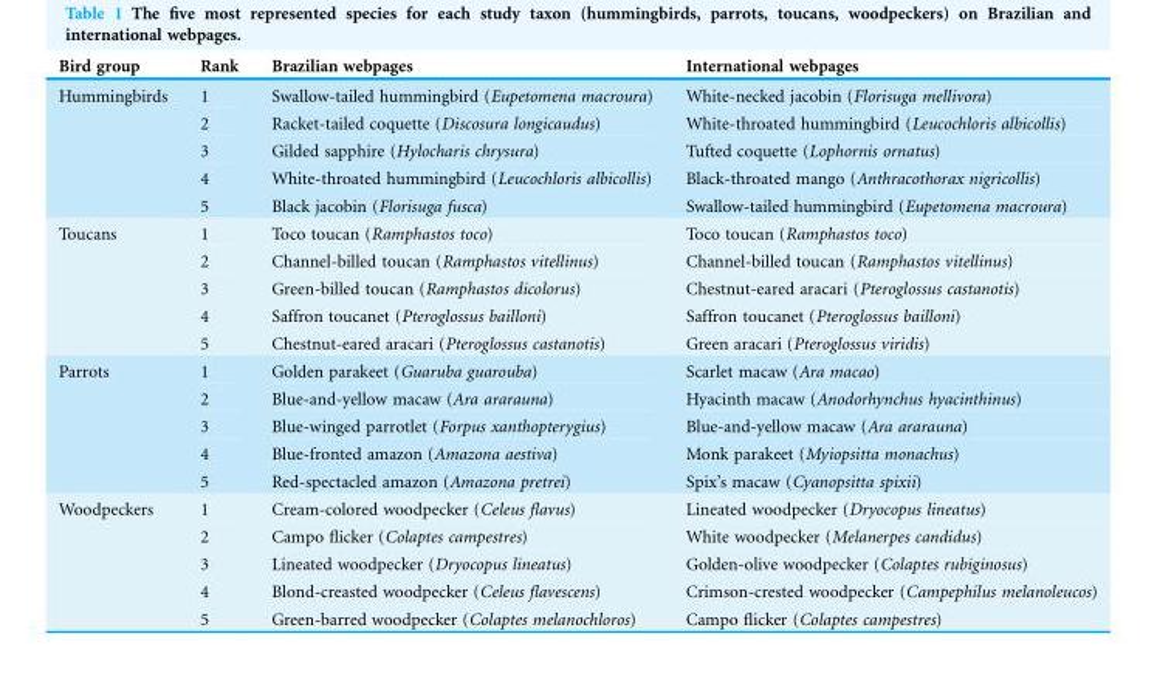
<table><thead><tr><td>Bird group</td><td>Rank</td><td>Brazilian webpages</td><td>International webpages</td></tr></thead><tbody><tr><td rowspan="5">Hummingbirds</td><td>1</td><td>Swallow-tailed hummingbird (Eupetomena macroura)</td><td>White-necked jacobin (Florisuga mellivora)</td></tr><tr><td>2</td><td>Racket-tailed coquette (Discosura longicaudus)</td><td>White-throated hummingbird (Leucochloris albicollis)</td></tr><tr><td>3</td><td>Gilded sapphire (Hylocharis chrysura)</td><td>Tufted coquette (Lophornis ornatus)</td></tr><tr><td>4</td><td>White-throated hummingbird (Leucochloris albicollis)</td><td>Black-throated mango (Anthracothorax nigricollis)</td></tr><tr><td>5</td><td>Black jacobin (Florisuga fusca)</td><td>Swallow-tailed hummingbird (Eupetomena macroura)</td></tr><tr><td rowspan="5">Toucans</td><td>1</td><td>Toco toucan (Ramphastos toco)</td><td>Toco toucan (Ramphastos toco)</td></tr><tr><td>2</td><td>Channel-billed toucan (Ramphastos vitellinus)</td><td>Channel-billed toucan (Ramphastos vitellinus)</td></tr><tr><td>3</td><td>Green-billed toucan (Ramphastos dicolorus)</td><td>Chestnut-eared aracari (Pteroglossus castanotis)</td></tr><tr><td>4</td><td>Saffron toucanet (Pteroglossus bailloni)</td><td>Saffron toucanet (Pteroglossus bailloni)</td></tr><tr><td>5</td><td>Chestnut-eared aracari (Pteroglossus castanotis)</td><td>Green aracari (Pteroglossus viridis)</td></tr><tr><td rowspan="5">Parrots</td><td>1</td><td>Golden parakeet (Guaruba guarouba)</td><td>Scarlet macaw (Ara macao)</td></tr><tr><td>2</td><td>Blue-and-yellow macaw (Ara ararauna)</td><td>Hyacinth macaw (Anodorhynchus hyacinthinus)</td></tr><tr><td>3</td><td>Blue-winged parrotlet (Forpus xanthopterygius)</td><td>Blue-and-yellow macaw (Ara ararauna)</td></tr><tr><td>4</td><td>Blue-fronted amazon (Amazona aestiva)</td><td>Monk parakeet (Myiopsitta monachus)</td></tr><tr><td>5</td><td>Red-spectacled amazon (Amazona pretrei)</td><td>Spix’s macaw (Cyanopsitta spixii)</td></tr><tr><td rowspan="5">Woodpeckers</td><td>1</td><td>Cream-colored woodpecker (Celeus flavus)</td><td>Lineated woodpecker (Dryocopus lineatus)</td></tr><tr><td>2</td><td>Campo flicker (Colaptes campestres)</td><td>White woodpecker (Melanerpes candidus)</td></tr><tr><td>3</td><td>Lineated woodpecker (Dryocopus lineatus)</td><td>Golden-olive woodpecker (Colaptes rubiginosus)</td></tr><tr><td>4</td><td>Blond-creasted woodpecker (Celeus flavescens)</td><td>Crimson-crested woodpecker (Campephilus melanoleucos)</td></tr><tr><td>5</td><td>Green-barred woodpecker (Colaptes melanochloros)</td><td>Campo flicker (Colaptes campestres)</td></tr></tbody></table>